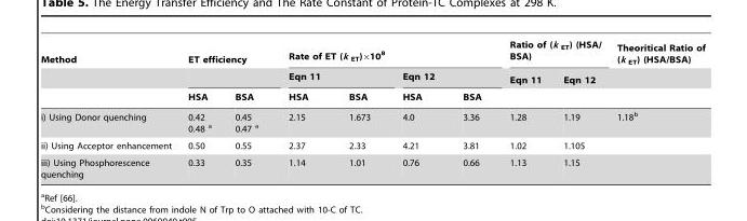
<table><thead><tr><td rowspan="3">Method</td><td colspan="2">ET efficiency</td><td colspan="4">Rate of ET (k <sub>ET</sub>)×10<sup>8</sup></td><td colspan="2">Ratio of (k <sub>ET</sub>) (HSA/ BSA)</td><td rowspan="3">Theoritical Ratio of (k <sub>ET</sub>) (HSA/BSA)</td></tr><tr><td rowspan="2">HSA</td><td rowspan="2">BSA</td><td colspan="2">Eqn 11</td><td colspan="2">Eqn 12</td><td rowspan="2">Eqn 11</td><td rowspan="2">Eqn 12</td></tr><tr><td>HSA</td><td>BSA</td><td>HSA</td><td>BSA</td></tr></thead><tbody><tr><td>i) Using Donor quenching</td><td>0.42 0.48 a</td><td>0.45 0.47 a</td><td>2.15</td><td>1.673</td><td>4.0</td><td>3.36</td><td>1.28</td><td>1.19</td><td>1.18<sup>b</sup></td></tr><tr><td>ii) Using Acceptor enhancement</td><td>0.50</td><td>0.55</td><td>2.37</td><td>2.33</td><td>4.21</td><td>3.81</td><td>1.02</td><td>1.105</td><td></td></tr><tr><td>iii) Using Phosphorescence quenching</td><td>0.33</td><td>0.35</td><td>1.14</td><td>1.01</td><td>0.76</td><td>0.66</td><td>1.13</td><td>1.15</td><td></td></tr></tbody></table>